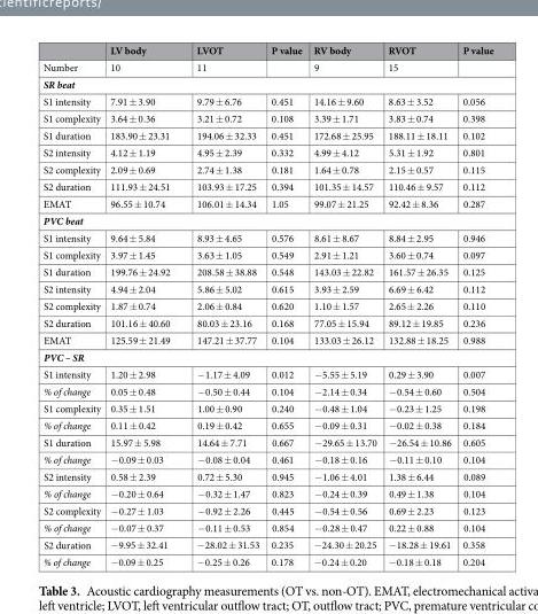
<table><thead><tr><td></td><td>LV body</td><td>LVOT</td><td>P value</td><td>RV body</td><td>RVOT</td><td>P value</td></tr></thead><tbody><tr><td>Number</td><td>10</td><td>11</td><td></td><td>9</td><td>15</td><td></td></tr><tr><td colspan="7">SR beat</td></tr><tr><td>S1 intensity</td><td>7.91 ± 3.90</td><td>9.79 ± 6.76</td><td>0.451</td><td>14.16 ± 9.60</td><td>8.63 ± 3.52</td><td>0.056</td></tr><tr><td>S1 complexity</td><td>3.64 ± 0.36</td><td>3.21 ± 0.72</td><td>0.108</td><td>3.39 ± 1.71</td><td>3.83 ± 0.74</td><td>0.398</td></tr><tr><td>S1 duration</td><td>183.90 ± 23.31</td><td>194.06 ± 32.33</td><td>0.451</td><td>172.68 ± 25.95</td><td>188.11 ± 18.11</td><td>0.102</td></tr><tr><td>S2 intensity</td><td>4.12 ± 1.19</td><td>4.95 ± 2.39</td><td>0.332</td><td>4.99 ± 4.12</td><td>5.31 ± 1.92</td><td>0.801</td></tr><tr><td>S2 complexity</td><td>2.09 ± 0.69</td><td>2.74 ± 1.38</td><td>0.181</td><td>1.64 ± 0.78</td><td>2.15 ± 0.57</td><td>0.115</td></tr><tr><td>S2 duration</td><td>111.93 ± 24.51</td><td>103.93 ± 17.25</td><td>0.394</td><td>101.35 ± 14.57</td><td>110.46 ± 9.57</td><td>0.112</td></tr><tr><td>EMAT</td><td>96.55 ± 10.74</td><td>106.01 ± 14.34</td><td>1.05</td><td>99.07 ± 21.25</td><td>92.42 ± 8.36</td><td>0.287</td></tr><tr><td colspan="7">PVC beat</td></tr><tr><td>S1 intensity</td><td>9.64 ± 5.84</td><td>8.93 ± 4.65</td><td>0.576</td><td>8.61 ± 8.67</td><td>8.84 ± 2.95</td><td>0.946</td></tr><tr><td>S1 complexity</td><td>3.97 ± 1.45</td><td>3.63 ± 1.05</td><td>0.549</td><td>2.91 ± 1.21</td><td>3.60 ± 0.74</td><td>0.097</td></tr><tr><td>S1 duration</td><td>199.76 ± 24.92</td><td>208.58 ± 38.88</td><td>0.548</td><td>143.03 ± 22.82</td><td>161.57 ± 26.35</td><td>0.125</td></tr><tr><td>S2 intensity</td><td>4.94 ± 2.04</td><td>5.86 ± 5.02</td><td>0.615</td><td>3.93 ± 2.59</td><td>6.69 ± 6.42</td><td>0.112</td></tr><tr><td>S2 complexity</td><td>1.87 ± 0.74</td><td>2.06 ± 0.84</td><td>0.620</td><td>1.10 ± 1.57</td><td>2.65 ± 2.26</td><td>0.110</td></tr><tr><td>S2 duration</td><td>101.16 ± 40.60</td><td>80.03 ± 23.16</td><td>0.168</td><td>77.05 ± 15.94</td><td>89.12 ± 19.85</td><td>0.236</td></tr><tr><td>EMAT</td><td>125.59 ± 21.49</td><td>147.21 ± 37.77</td><td>0.104</td><td>133.03 ± 26.12</td><td>132.88 ± 18.25</td><td>0.988</td></tr><tr><td colspan="7">PVC – SR</td></tr><tr><td>S1 intensity</td><td>1.20 ± 2.98</td><td>−1.17 ± 4.09</td><td>0.012</td><td>−5.55 ± 5.19</td><td>0.29 ± 3.90</td><td>0.007</td></tr><tr><td>% of change</td><td>0.05 ± 0.48</td><td>−0.50 ± 0.44</td><td>0.104</td><td>−2.14 ± 0.34</td><td>−0.54 ± 0.60</td><td>0.504</td></tr><tr><td>S1 complexity</td><td>0.35 ± 1.51</td><td>1.00 ± 0.90</td><td>0.240</td><td>−0.48 ± 1.04</td><td>−0.23 ± 1.25</td><td>0.198</td></tr><tr><td>% of change</td><td>0.11 ± 0.42</td><td>0.19 ± 0.42</td><td>0.655</td><td>−0.09 ± 0.31</td><td>−0.02 ± 0.38</td><td>0.184</td></tr><tr><td>S1 duration</td><td>15.97 ± 5.98</td><td>14.64 ± 7.71</td><td>0.667</td><td>−29.65 ± 13.70</td><td>−26.54 ± 10.86</td><td>0.605</td></tr><tr><td>% of change</td><td>−0.09 ± 0.03</td><td>−0.08 ± 0.04</td><td>0.461</td><td>−0.18 ± 0.16</td><td>−0.11 ± 0.10</td><td>0.104</td></tr><tr><td>S2 intensity</td><td>0.58 ± 2.39</td><td>0.72 ± 5.30</td><td>0.945</td><td>−1.06 ± 4.01</td><td>1.38 ± 6.44</td><td>0.089</td></tr><tr><td>% of change</td><td>−0.20 ± 0.64</td><td>−0.32 ± 1.47</td><td>0.823</td><td>−0.24 ± 0.39</td><td>0.49 ± 1.38</td><td>0.104</td></tr><tr><td>S2 complexity</td><td>−0.27 ± 1.03</td><td>−0.92 ± 2.26</td><td>0.445</td><td>−0.54 ± 0.56</td><td>0.69 ± 2.23</td><td>0.123</td></tr><tr><td>% of change</td><td>−0.07 ± 0.37</td><td>−0.11 ± 0.53</td><td>0.854</td><td>−0.28 ± 0.47</td><td>0.22 ± 0.88</td><td>0.104</td></tr><tr><td>S2 duration</td><td>−9.95 ± 32.41</td><td>−28.02 ± 31.53</td><td>0.235</td><td>−24.30 ± 20.25</td><td>−18.28 ± 19.61</td><td>0.358</td></tr><tr><td>% of change</td><td>−0.09 ± 0.25</td><td>−0.25 ± 0.26</td><td>0.178</td><td>−0.24 ± 0.20</td><td>−0.18 ± 0.18</td><td>0.204</td></tr></tbody></table>